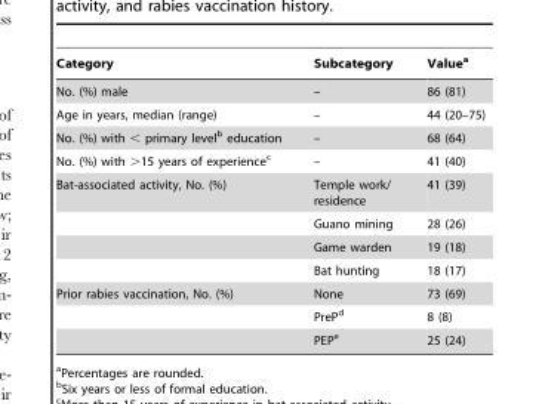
<table><thead><tr><td>Category</td><td>Subcategory</td><td>Value<sup>a</sup></td></tr></thead><tbody><tr><td>No. (%) male</td><td>–</td><td>86 (81)</td></tr><tr><td>Age in years, median (range)</td><td>–</td><td>44 (20–75)</td></tr><tr><td>No. (%) with &lt; primary level<sup>b</sup> education</td><td>–</td><td>68 (64)</td></tr><tr><td>No. (%) with &gt;15 years of experience<sup>c</sup></td><td>–</td><td>41 (40)</td></tr><tr><td rowspan="4">Bat-associated activity, No. (%)</td><td>Temple work/ residence</td><td>41 (39)</td></tr><tr><td>Guano mining</td><td>28 (26)</td></tr><tr><td>Game warden</td><td>19 (18)</td></tr><tr><td>Bat hunting</td><td>18 (17)</td></tr><tr><td rowspan="3">Prior rabies vaccination, No. (%)</td><td>None</td><td>73 (69)</td></tr><tr><td>PreP<sup>d</sup></td><td>8 (8)</td></tr><tr><td>PEP<sup>e</sup></td><td>25 (24)</td></tr></tbody></table>